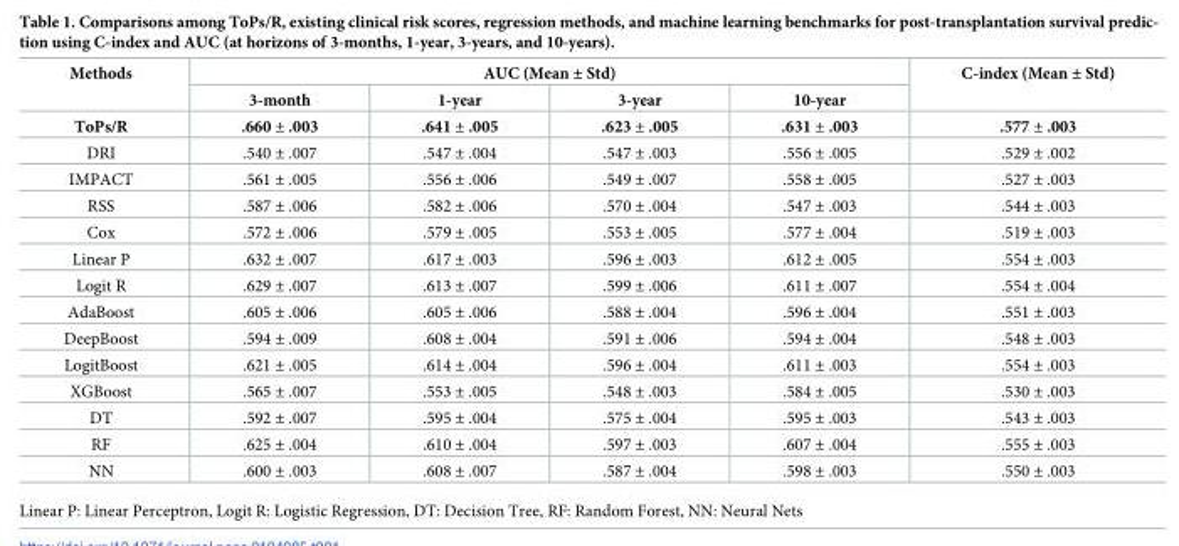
<table><thead><tr><td rowspan="2">Methods</td><td colspan="4">AUC (Mean ± Std)</td><td rowspan="2">C-index (Mean ± Std)</td></tr><tr><td>3-month</td><td>1-year</td><td>3-year</td><td>10-year</td></tr></thead><tbody><tr><td>ToPs/R</td><td>.660 ± .003</td><td>.641 ± .005</td><td>.623 ± .005</td><td>.631 ± .003</td><td>.577 ± .003</td></tr><tr><td>DRI</td><td>.540 ± .007</td><td>.547 ± .004</td><td>.547 ± .003</td><td>.556 ± .005</td><td>.529 ± .002</td></tr><tr><td>IMPACT</td><td>.561 ± .005</td><td>.556 ± .006</td><td>.549 ± .007</td><td>.558 ± .005</td><td>.527 ± .003</td></tr><tr><td>RSS</td><td>.587 ± .006</td><td>.582 ± .006</td><td>.570 ± .004</td><td>.547 ± .003</td><td>.544 ± .003</td></tr><tr><td>Cox</td><td>.572 ± .006</td><td>.579 ± .005</td><td>.553 ± .005</td><td>.577 ± .004</td><td>.519 ± .003</td></tr><tr><td>Linear P</td><td>.632 ± .007</td><td>.617 ± .003</td><td>.596 ± .003</td><td>.612 ± .005</td><td>.554 ± .003</td></tr><tr><td>Logit R</td><td>.629 ± .007</td><td>.613 ± .007</td><td>.599 ± .006</td><td>.611 ± .007</td><td>.554 ± .004</td></tr><tr><td>AdaBoost</td><td>.605 ± .006</td><td>.605 ± .006</td><td>.588 ± .004</td><td>.596 ± .004</td><td>.551 ± .003</td></tr><tr><td>DeepBoost</td><td>.594 ± .009</td><td>.608 ± .004</td><td>.591 ± .006</td><td>.594 ± .004</td><td>.548 ± .003</td></tr><tr><td>LogitBoost</td><td>.621 ± .005</td><td>.614 ± .004</td><td>.596 ± .004</td><td>.611 ± .003</td><td>.554 ± .003</td></tr><tr><td>XGBoost</td><td>.565 ± .007</td><td>.553 ± .005</td><td>.548 ± .003</td><td>.584 ± .005</td><td>.530 ± .003</td></tr><tr><td>DT</td><td>.592 ± .007</td><td>.595 ± .004</td><td>.575 ± .004</td><td>.595 ± .003</td><td>.543 ± .003</td></tr><tr><td>RF</td><td>.625 ± .004</td><td>.610 ± .004</td><td>.597 ± .003</td><td>.607 ± .004</td><td>.555 ± .003</td></tr><tr><td>NN</td><td>.600 ± .003</td><td>.608 ± .007</td><td>.587 ± .004</td><td>.598 ± .003</td><td>.550 ± .003</td></tr></tbody></table>